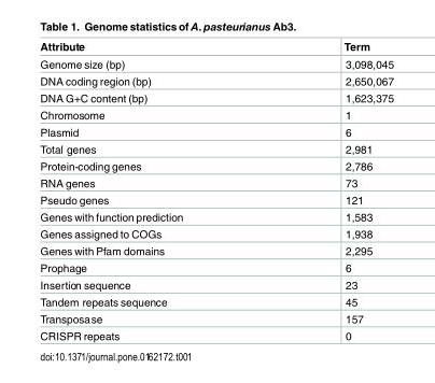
<table><thead><tr><td>Attribute</td><td>Term</td></tr></thead><tbody><tr><td>Genome size (bp)</td><td>3,098,045</td></tr><tr><td>DNA coding region (bp)</td><td>2,650,067</td></tr><tr><td>DNA G+C content (bp)</td><td>1,623,375</td></tr><tr><td>Chromosome</td><td>1</td></tr><tr><td>Plasmid</td><td>6</td></tr><tr><td>Total genes</td><td>2,981</td></tr><tr><td>Protein-coding genes</td><td>2,786</td></tr><tr><td>RNA genes</td><td>73</td></tr><tr><td>Pseudo genes</td><td>121</td></tr><tr><td>Genes with function prediction</td><td>1,583</td></tr><tr><td>Genes assigned to COGs</td><td>1,938</td></tr><tr><td>Genes with Pfam domains</td><td>2,295</td></tr><tr><td>Prophage</td><td>6</td></tr><tr><td>Insertion sequence</td><td>23</td></tr><tr><td>Tandem repeats sequence</td><td>45</td></tr><tr><td>Transposase</td><td>157</td></tr><tr><td>CRISPR repeats</td><td>0</td></tr></tbody></table>